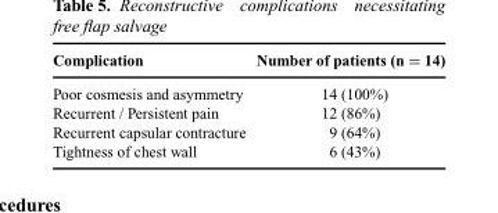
<table><thead><tr><td>Complication</td><td>Number of patients (n = 14)</td></tr></thead><tbody><tr><td>Poor cosmesis and asymmetry</td><td>14 (100%)</td></tr><tr><td>Recurrent / Persistent pain</td><td>12 (86%)</td></tr><tr><td>Recurrent capsular contracture</td><td>9 (64%)</td></tr><tr><td>Tightness of chest wall</td><td>6 (43%)</td></tr></tbody></table>